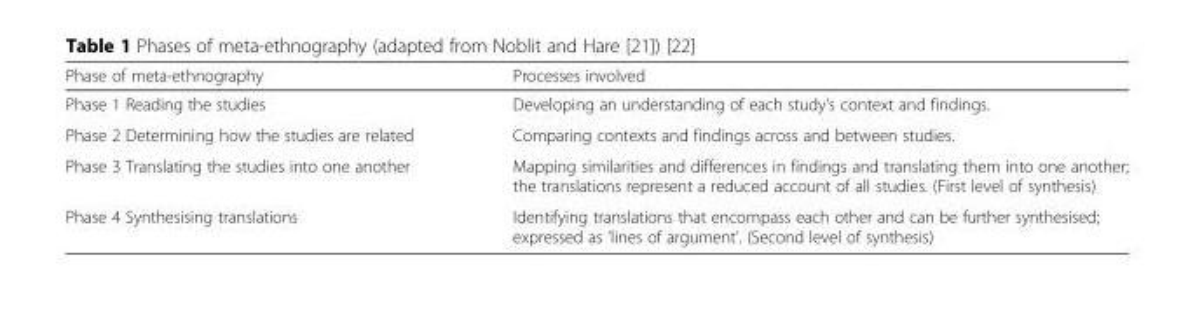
<table><thead><tr><td>Phase of meta-ethnography</td><td>Processes involved</td></tr></thead><tbody><tr><td>Phase 1 Reading the studies</td><td>Developing an understanding of each study’s context and findings.</td></tr><tr><td>Phase 2 Determining how the studies are related</td><td>Comparing contexts and findings across and between studies.</td></tr><tr><td>Phase 3 Translating the studies into one another</td><td>Mapping similarities and differences in findings and translating them into one another; the translations represent a reduced account of all studies. (First level of synthesis)</td></tr><tr><td>Phase 4 Synthesising translations</td><td>Identifying translations that encompass each other and can be further synthesised; expressed as ‘lines of argument’. (Second level of synthesis)</td></tr></tbody></table>